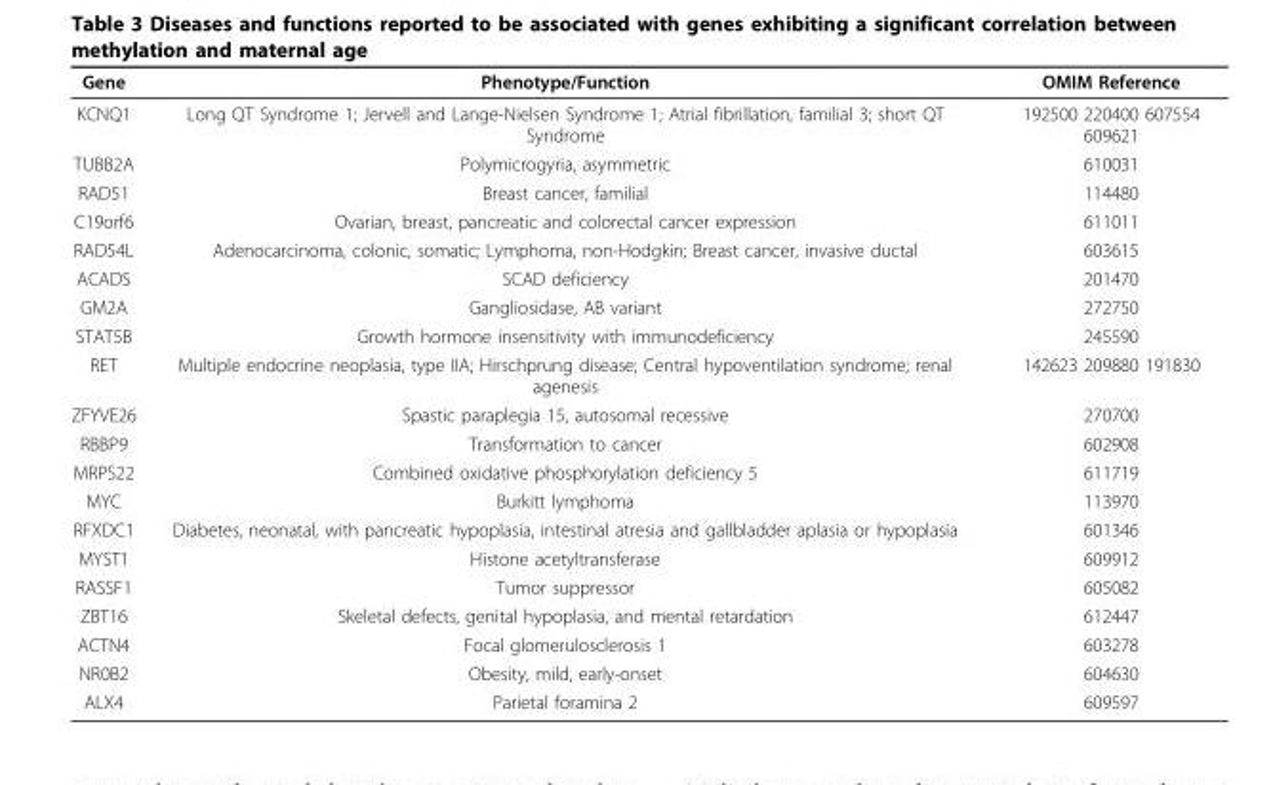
<table><thead><tr><td>Gene</td><td>Phenotype/Function</td><td>OMIM Reference</td></tr></thead><tbody><tr><td>KCNQ1</td><td>Long QT Syndrome 1; Jervell and Lange-Nielsen Syndrome 1; Atrial fibrillation, familial 3; short QT Syndrome</td><td>192500 220400 607554 609621</td></tr><tr><td>TUBB2A</td><td>Polymicrogyria, asymmetric</td><td>610031</td></tr><tr><td>RAD51</td><td>Breast cancer, familial</td><td>114480</td></tr><tr><td>C19orf6</td><td>Ovarian, breast, pancreatic and colorectal cancer expression</td><td>611011</td></tr><tr><td>RAD54L</td><td>Adenocarcinoma, colonic, somatic; Lymphoma, non-Hodgkin; Breast cancer, invasive ductal</td><td>603615</td></tr><tr><td>ACADS</td><td>SCAD deficiency</td><td>201470</td></tr><tr><td>GM2A</td><td>Gangliosidase, AB variant</td><td>272750</td></tr><tr><td>STAT5B</td><td>Growth hormone insensitivity with immunodeficiency</td><td>245590</td></tr><tr><td>RET</td><td>Multiple endocrine neoplasia, type IIA; Hirschprung disease; Central hypoventilation syndrome; renal agenesis</td><td>142623 209880 191830</td></tr><tr><td>ZFYVE26</td><td>Spastic paraplegia 15, autosomal recessive</td><td>270700</td></tr><tr><td>RBBP9</td><td>Transformation to cancer</td><td>602908</td></tr><tr><td>MRPS22</td><td>Combined oxidative phosphorylation deficiency 5</td><td>611719</td></tr><tr><td>MYC</td><td>Burkitt lymphoma</td><td>113970</td></tr><tr><td>RFXDC1</td><td>Diabetes, neonatal, with pancreatic hypoplasia, intestinal atresia and gallbladder aplasia or hypoplasia</td><td>601346</td></tr><tr><td>MYST1</td><td>Histone acetyltransferase</td><td>609912</td></tr><tr><td>RASSF1</td><td>Tumor suppressor</td><td>605082</td></tr><tr><td>ZBT16</td><td>Skeletal defects, genital hypoplasia, and mental retardation</td><td>612447</td></tr><tr><td>ACTN4</td><td>Focal glomerulosclerosis 1</td><td>603278</td></tr><tr><td>NR0B2</td><td>Obesity, mild, early-onset</td><td>604630</td></tr><tr><td>ALX4</td><td>Parietal foramina 2</td><td>609597</td></tr></tbody></table>